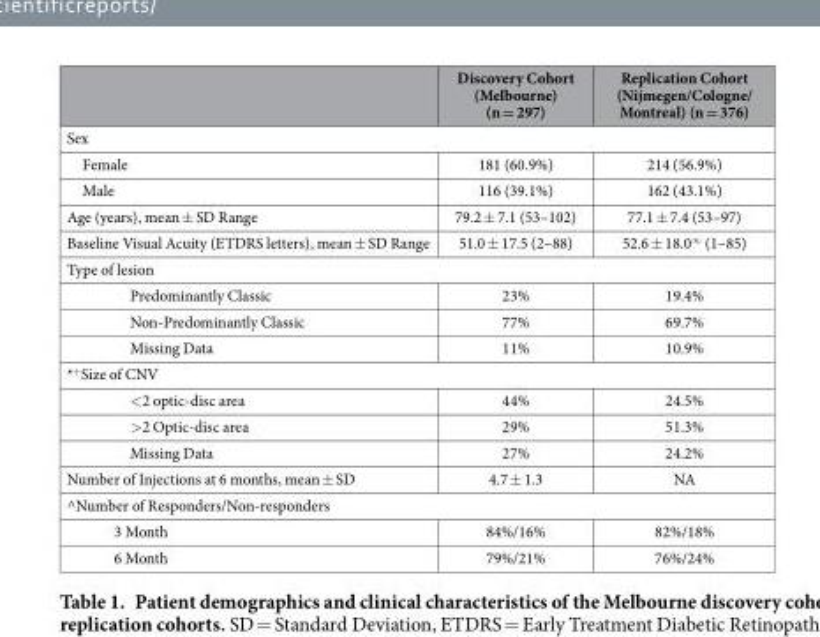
<table><thead><tr><td></td><td>Discovery Cohort (Melbourne) (n = 297)</td><td>Replication Cohort (Nijmegen/Cologne/ Montreal) (n = 376)</td></tr></thead><tbody><tr><td colspan="3">Sex</td></tr><tr><td>Female</td><td>181 (60.9%)</td><td>214 (56.9%)</td></tr><tr><td>Male</td><td>116 (39.1%)</td><td>162 (43.1%)</td></tr><tr><td>Age (years), mean ± SD Range</td><td>79.2 ± 7.1 (53–102)</td><td>77.1 ± 7.4 (53–97)</td></tr><tr><td>Baseline Visual Acuity (ETDRS letters), mean ± SD Range</td><td>51.0 ± 17.5 (2–88)</td><td>52.6 ± 18.0<sup>∞</sup> (1–85)</td></tr><tr><td colspan="3">Type of lesion</td></tr><tr><td>Predominantly Classic</td><td>23%</td><td>19.4%</td></tr><tr><td>Non-Predominantly Classic</td><td>77%</td><td>69.7%</td></tr><tr><td>Missing Data</td><td>11%</td><td>10.9%</td></tr><tr><td colspan="3">*<sup>+</sup>Size of CNV</td></tr><tr><td>&lt; 2 optic-disc area</td><td>44%</td><td>24.5%</td></tr><tr><td>&gt; 2 Optic-disc area</td><td>29%</td><td>51.3%</td></tr><tr><td>Missing Data</td><td>27%</td><td>24.2%</td></tr><tr><td>Number of Injections at 6 months, mean ± SD</td><td>4.7 ± 1.3</td><td>NA</td></tr><tr><td colspan="3">^Number of Responders/Non-responders</td></tr><tr><td>3 Month</td><td>84%/16%</td><td>82%/18%</td></tr><tr><td>6 Month</td><td>79%/21%</td><td>76%/24%</td></tr></tbody></table>